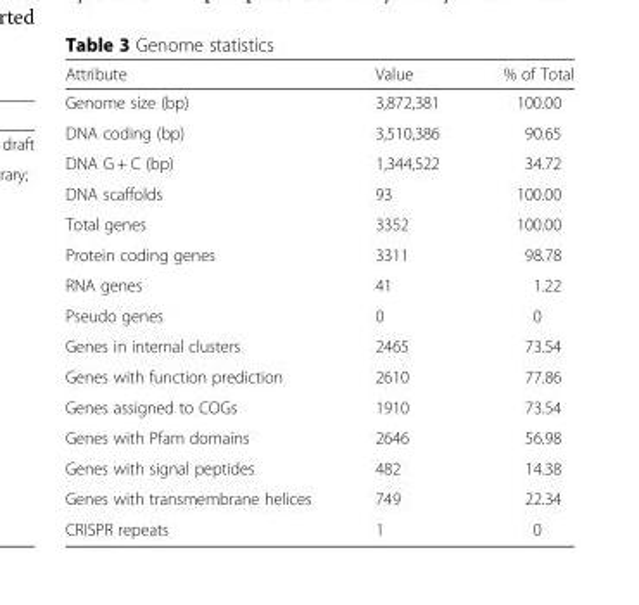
<table><thead><tr><td>Attribute</td><td>Value</td><td>% of Total</td></tr></thead><tbody><tr><td>Genome size (bp)</td><td>3,872,381</td><td>100.00</td></tr><tr><td>DNA coding (bp)</td><td>3,510,386</td><td>90.65</td></tr><tr><td>DNA G + C (bp)</td><td>1,344,522</td><td>34.72</td></tr><tr><td>DNA scaffolds</td><td>93</td><td>100.00</td></tr><tr><td>Total genes</td><td>3352</td><td>100.00</td></tr><tr><td>Protein coding genes</td><td>3311</td><td>98.78</td></tr><tr><td>RNA genes</td><td>41</td><td>1.22</td></tr><tr><td>Pseudo genes</td><td>0</td><td>0</td></tr><tr><td>Genes in internal clusters</td><td>2465</td><td>73.54</td></tr><tr><td>Genes with function prediction</td><td>2610</td><td>77.86</td></tr><tr><td>Genes assigned to COGs</td><td>1910</td><td>73.54</td></tr><tr><td>Genes with Pfam domains</td><td>2646</td><td>56.98</td></tr><tr><td>Genes with signal peptides</td><td>482</td><td>14.38</td></tr><tr><td>Genes with transmembrane helices</td><td>749</td><td>22.34</td></tr><tr><td>CRISPR repeats</td><td>1</td><td>0</td></tr></tbody></table>